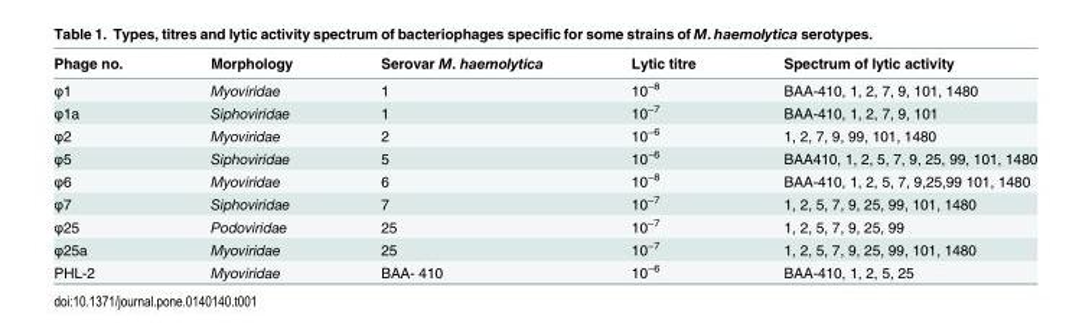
<table><thead><tr><td>Phage no.</td><td>Morphology</td><td>Serovar M. haemolytica</td><td>Lytic titre</td><td>Spectrum of lytic activity</td></tr></thead><tbody><tr><td>φ1</td><td>Myoviridae</td><td>1</td><td>10<sup>−8</sup></td><td>BAA-410, 1, 2, 7, 9, 101, 1480</td></tr><tr><td>φ1a</td><td>Siphoviridae</td><td>1</td><td>10<sup>−7</sup></td><td>BAA-410, 1, 2, 7, 9, 101</td></tr><tr><td>φ2</td><td>Myoviridae</td><td>2</td><td>10<sup>−6</sup></td><td>1, 2, 7, 9, 99, 101, 1480</td></tr><tr><td>φ5</td><td>Siphoviridae</td><td>5</td><td>10<sup>−6</sup></td><td>BAA410, 1, 2, 5, 7, 9, 25, 99, 101, 1480</td></tr><tr><td>φ6</td><td>Myoviridae</td><td>6</td><td>10<sup>−8</sup></td><td>BAA-410, 1, 2, 5, 7, 9,25,99 101, 1480</td></tr><tr><td>φ7</td><td>Siphoviridae</td><td>7</td><td>10<sup>−7</sup></td><td>1, 2, 5, 7, 9, 25, 99, 101, 1480</td></tr><tr><td>φ25</td><td>Podoviridae</td><td>25</td><td>10<sup>−7</sup></td><td>1, 2, 5, 7, 9, 25, 99</td></tr><tr><td>φ25a</td><td>Myoviridae</td><td>25</td><td>10<sup>−7</sup></td><td>1, 2, 5, 7, 9, 25, 99, 101, 1480</td></tr><tr><td>PHL-2</td><td>Myoviridae</td><td>BAA- 410</td><td>10<sup>−6</sup></td><td>BAA-410, 1, 2, 5, 25</td></tr></tbody></table>